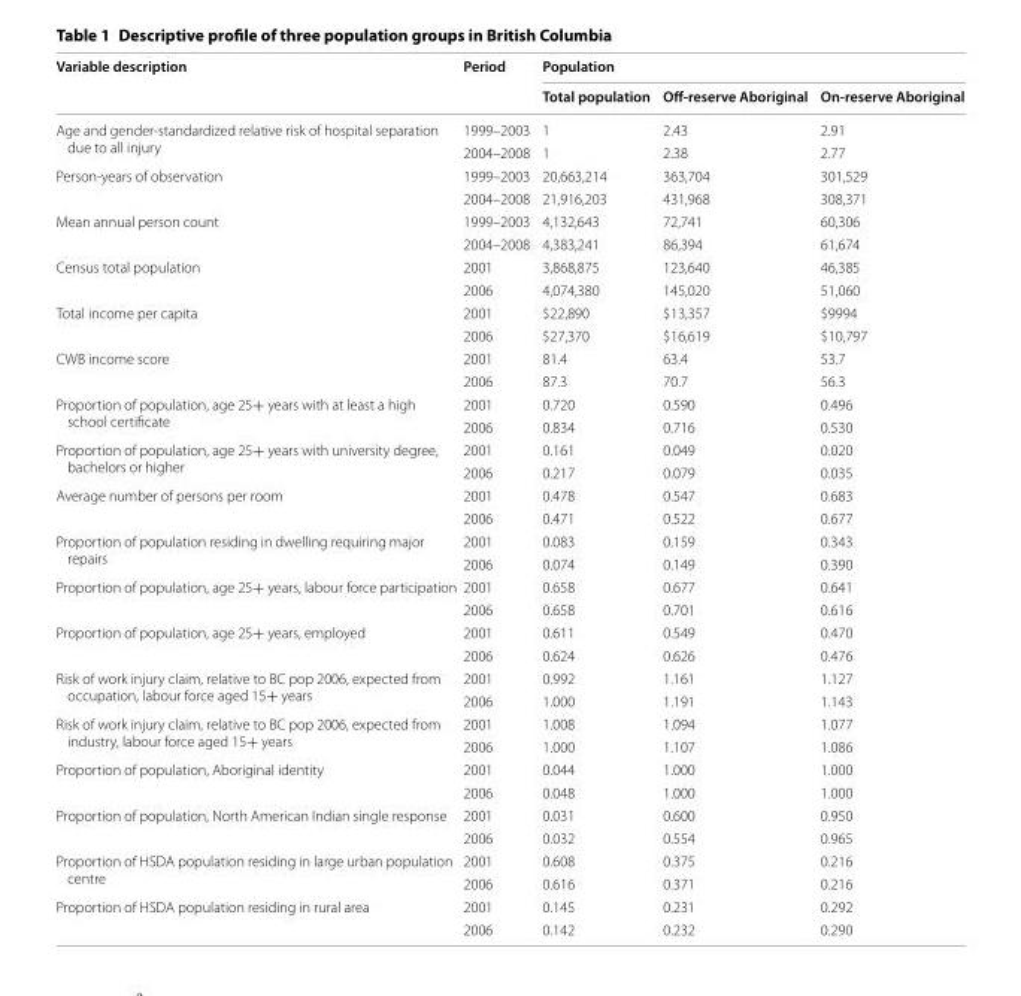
<table><thead><tr><td rowspan="2">Variable description</td><td rowspan="2">Period</td><td colspan="3">Population</td></tr><tr><td>Total population</td><td>Off-reserve Aboriginal</td><td>On-reserve Aboriginal</td></tr></thead><tbody><tr><td rowspan="2">Age and gender-standardized relative risk of hospital separation due to all injury</td><td>1999–2003</td><td>1</td><td>2.43</td><td>2.91</td></tr><tr><td>2004–2008</td><td>1</td><td>2.38</td><td>2.77</td></tr><tr><td rowspan="2">Person-years of observation</td><td>1999–2003</td><td>20,663,214</td><td>363,704</td><td>301,529</td></tr><tr><td>2004–2008</td><td>21,916,203</td><td>431,968</td><td>308,371</td></tr><tr><td rowspan="2">Mean annual person count</td><td>1999–2003</td><td>4,132,643</td><td>72,741</td><td>60,306</td></tr><tr><td>2004–2008</td><td>4,383,241</td><td>86,394</td><td>61,674</td></tr><tr><td rowspan="2">Census total population</td><td>2001</td><td>3,868,875</td><td>123,640</td><td>46,385</td></tr><tr><td>2006</td><td>4,074,380</td><td>145,020</td><td>51,060</td></tr><tr><td rowspan="2">Total income per capita</td><td>2001</td><td>$22,890</td><td>$13,357</td><td>$9994</td></tr><tr><td>2006</td><td>$27,370</td><td>$16,619</td><td>$10,797</td></tr><tr><td rowspan="2">CWB income score</td><td>2001</td><td>81.4</td><td>63.4</td><td>53.7</td></tr><tr><td>2006</td><td>87.3</td><td>70.7</td><td>56.3</td></tr><tr><td rowspan="2">Proportion of population, age 25+ years with at least a high school certificate</td><td>2001</td><td>0.720</td><td>0.590</td><td>0.496</td></tr><tr><td>2006</td><td>0.834</td><td>0.716</td><td>0.530</td></tr><tr><td rowspan="2">Proportion of population, age 25+ years with university degree, bachelors or higher</td><td>2001</td><td>0.161</td><td>0.049</td><td>0.020</td></tr><tr><td>2006</td><td>0.217</td><td>0.079</td><td>0.035</td></tr><tr><td rowspan="2">Average number of persons per room</td><td>2001</td><td>0.478</td><td>0.547</td><td>0.683</td></tr><tr><td>2006</td><td>0.471</td><td>0.522</td><td>0.677</td></tr><tr><td rowspan="2">Proportion of population residing in dwelling requiring major repairs</td><td>2001</td><td>0.083</td><td>0.159</td><td>0.343</td></tr><tr><td>2006</td><td>0.074</td><td>0.149</td><td>0.390</td></tr><tr><td rowspan="2">Proportion of population, age 25+ years, labour force participation</td><td>2001</td><td>0.658</td><td>0.677</td><td>0.641</td></tr><tr><td>2006</td><td>0.658</td><td>0.701</td><td>0.616</td></tr><tr><td rowspan="2">Proportion of population, age 25+ years, employed</td><td>2001</td><td>0.611</td><td>0.549</td><td>0.470</td></tr><tr><td>2006</td><td>0.624</td><td>0.626</td><td>0.476</td></tr><tr><td rowspan="2">Risk of work injury claim, relative to BC pop 2006, expected from occupation, labour force aged 15+ years</td><td>2001</td><td>0.992</td><td>1.161</td><td>1.127</td></tr><tr><td>2006</td><td>1.000</td><td>1.191</td><td>1.143</td></tr><tr><td rowspan="2">Risk of work injury claim, relative to BC pop 2006, expected from industry, labour force aged 15+ years</td><td>2001</td><td>1.008</td><td>1.094</td><td>1.077</td></tr><tr><td>2006</td><td>1.000</td><td>1.107</td><td>1.086</td></tr><tr><td rowspan="2">Proportion of population, Aboriginal identity</td><td>2001</td><td>0.044</td><td>1.000</td><td>1.000</td></tr><tr><td>2006</td><td>0.048</td><td>1.000</td><td>1.000</td></tr><tr><td rowspan="2">Proportion of population, North American Indian single response</td><td>2001</td><td>0.031</td><td>0.600</td><td>0.950</td></tr><tr><td>2006</td><td>0.032</td><td>0.554</td><td>0.965</td></tr><tr><td rowspan="2">Proportion of HSDA population residing in large urban population centre</td><td>2001</td><td>0.608</td><td>0.375</td><td>0.216</td></tr><tr><td>2006</td><td>0.616</td><td>0.371</td><td>0.216</td></tr><tr><td rowspan="2">Proportion of HSDA population residing in rural area</td><td>2001</td><td>0.145</td><td>0.231</td><td>0.292</td></tr><tr><td>2006</td><td>0.142</td><td>0.232</td><td>0.290</td></tr></tbody></table>